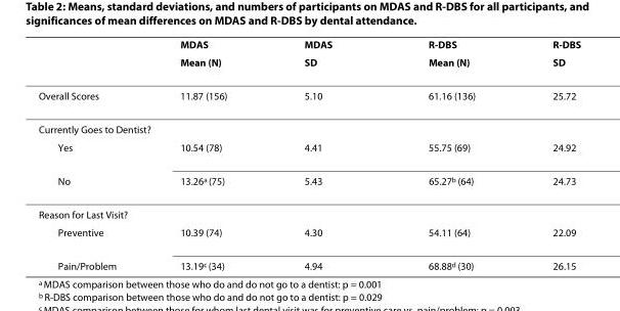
<table><thead><tr><td rowspan="2"></td><td rowspan="2">MDAS Mean (N)</td><td rowspan="2">MDAS SD</td><td rowspan="2">R-DBS Mean (N)</td><td rowspan="2">R-DBS SD</td></tr><tr></tr></thead><tbody><tr><td>Overall Scores</td><td>11.87 (156)</td><td>5.10</td><td>61.16 (136)</td><td>25.72</td></tr><tr><td colspan="5">Currently Goes to Dentist?</td></tr><tr><td>Yes</td><td>10.54 (78)</td><td>4.41</td><td>55.75 (69)</td><td>24.92</td></tr><tr><td>No</td><td>13.26<sup>a</sup> (75)</td><td>5.43</td><td>65.27<sup>b</sup> (64)</td><td>24.73</td></tr><tr><td colspan="5">Reason for Last Visit?</td></tr><tr><td>Preventive</td><td>10.39 (74)</td><td>4.30</td><td>54.11 (64)</td><td>22.09</td></tr><tr><td>Pain/Problem</td><td>13.19<sup>c</sup> (34)</td><td>4.94</td><td>68.88<sup>d</sup> (30)</td><td>26.15</td></tr></tbody></table>